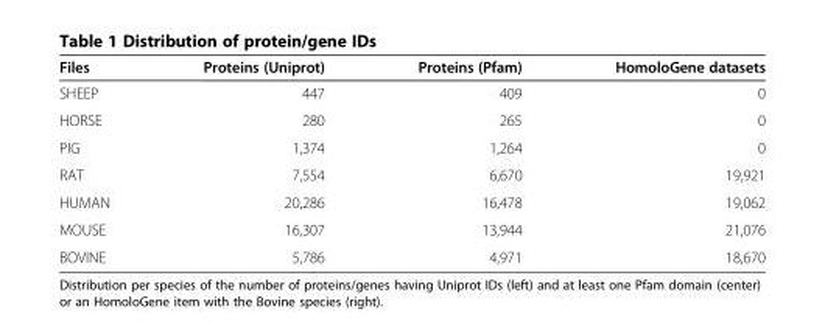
<table><thead><tr><td>Files</td><td>Proteins (Uniprot)</td><td>Proteins (Pfam)</td><td>HomoloGene datasets</td></tr></thead><tbody><tr><td>SHEEP</td><td>447</td><td>409</td><td>0</td></tr><tr><td>HORSE</td><td>280</td><td>265</td><td>0</td></tr><tr><td>PIG</td><td>1,374</td><td>1,264</td><td>0</td></tr><tr><td>RAT</td><td>7,554</td><td>6,670</td><td>19,921</td></tr><tr><td>HUMAN</td><td>20,286</td><td>16,478</td><td>19,062</td></tr><tr><td>MOUSE</td><td>16,307</td><td>13,944</td><td>21,076</td></tr><tr><td>BOVINE</td><td>5,786</td><td>4,971</td><td>18,670</td></tr></tbody></table>